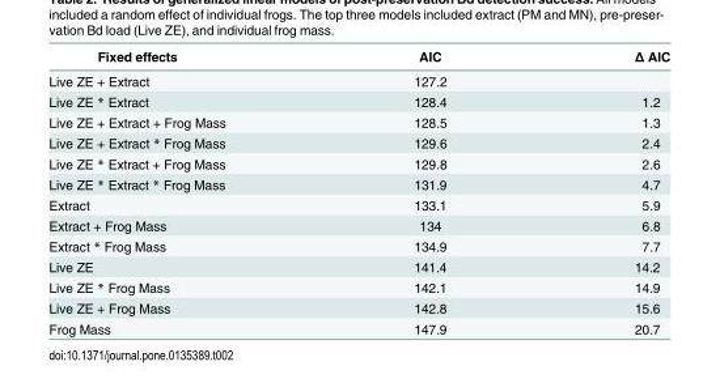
<table><thead><tr><td>Fixed effects</td><td>AIC</td><td>Δ AIC</td></tr></thead><tbody><tr><td>Live ZE + Extract</td><td>127.2</td><td></td></tr><tr><td>Live ZE * Extract</td><td>128.4</td><td>1.2</td></tr><tr><td>Live ZE + Extract + Frog Mass</td><td>128.5</td><td>1.3</td></tr><tr><td>Live ZE + Extract * Frog Mass</td><td>129.6</td><td>2.4</td></tr><tr><td>Live ZE * Extract + Frog Mass</td><td>129.8</td><td>2.6</td></tr><tr><td>Live ZE * Extract * Frog Mass</td><td>131.9</td><td>4.7</td></tr><tr><td>Extract</td><td>133.1</td><td>5.9</td></tr><tr><td>Extract + Frog Mass</td><td>134</td><td>6.8</td></tr><tr><td>Extract * Frog Mass</td><td>134.9</td><td>7.7</td></tr><tr><td>Live ZE</td><td>141.4</td><td>14.2</td></tr><tr><td>Live ZE * Frog Mass</td><td>142.1</td><td>14.9</td></tr><tr><td>Live ZE + Frog Mass</td><td>142.8</td><td>15.6</td></tr><tr><td>Frog Mass</td><td>147.9</td><td>20.7</td></tr></tbody></table>